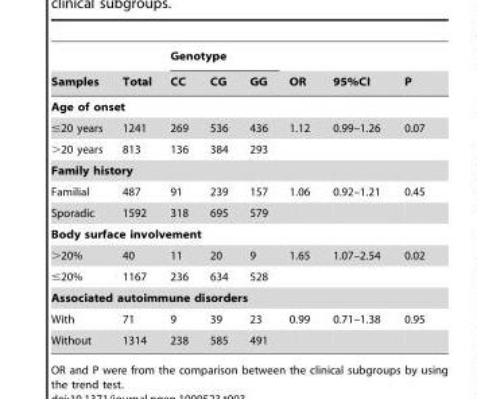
<table><thead><tr><td rowspan="2">Samples</td><td rowspan="2">Total</td><td colspan="3">Genotype</td><td rowspan="2">OR</td><td rowspan="2">95%CI</td><td rowspan="2">P</td></tr><tr><td>CC</td><td>CG</td><td>GG</td></tr></thead><tbody><tr><td colspan="8">Age of onset</td></tr><tr><td>≤20 years</td><td>1241</td><td>269</td><td>536</td><td>436</td><td>1.12</td><td>0.99–1.26</td><td>0.07</td></tr><tr><td>&gt;20 years</td><td>813</td><td>136</td><td>384</td><td>293</td><td></td><td></td><td></td></tr><tr><td colspan="8">Family history</td></tr><tr><td>Familial</td><td>487</td><td>91</td><td>239</td><td>157</td><td>1.06</td><td>0.92–1.21</td><td>0.45</td></tr><tr><td>Sporadic</td><td>1592</td><td>318</td><td>695</td><td>579</td><td></td><td></td><td></td></tr><tr><td colspan="8">Body surface involvement</td></tr><tr><td>&gt;20%</td><td>40</td><td>11</td><td>20</td><td>9</td><td>1.65</td><td>1.07–2.54</td><td>0.02</td></tr><tr><td>≤20%</td><td>1167</td><td>236</td><td>634</td><td>528</td><td></td><td></td><td></td></tr><tr><td colspan="8">Associated autoimmune disorders</td></tr><tr><td>With</td><td>71</td><td>9</td><td>39</td><td>23</td><td>0.99</td><td>0.71–1.38</td><td>0.95</td></tr><tr><td>Without</td><td>1314</td><td>238</td><td>585</td><td>491</td><td></td><td></td><td></td></tr></tbody></table>